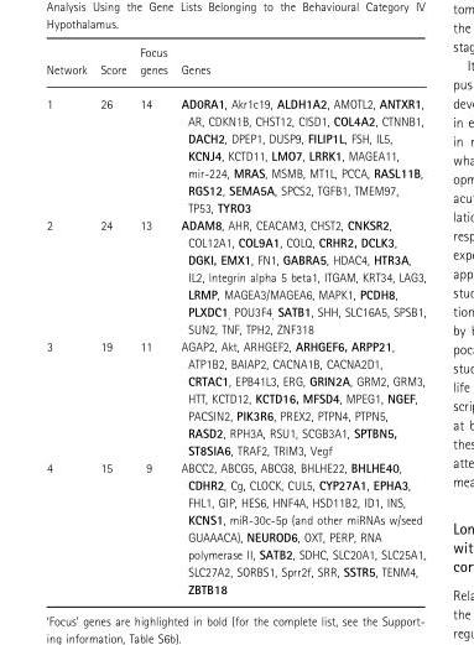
<table><thead><tr><td>Network</td><td>Score</td><td>Focus genes</td><td>Genes</td></tr></thead><tbody><tr><td>1</td><td>26</td><td>14</td><td>AD0RA1, Akr1c19, ALDH1A2, AMOTL2, ANTXR1, AR, CDKN1B, CHST12, CISD1, COL4A2, CTNNB1, DACH2, DPEP1, DUSP9, FILIP1L, FSH, IL5, KCNJ4, KCTD11, LMO7, LRRK1, MAGEA11, mir-224, MRAS, MSMB, MT1L, PCCA, RASL11B, RGS12, SEMA5A, SPCS2, TGFB1, TMEM97, TP53, TYRO3</td></tr><tr><td>2</td><td>24</td><td>13</td><td>ADAM8, AHR, CEACAM3, CHST2, CNKSR2, COL12A1, COL9A1, COLQ, CRHR2, DCLK3, DGKI, EMX1, FN1, GABRA5, HDAC4, HTR3A, IL2, lntegrin alpha 5 beta1, ITGAM, KRT34, LAG3, LRMP, MAGEA3/MAGEA6, MAPK1, PCDH8, PLXDC1<sub>,</sub> POU3F4<sub>,</sub> SATB1, SHH, SLC16A5, SPSB1, SUN2, TNF, TPH2, ZNF318</td></tr><tr><td>3</td><td>19</td><td>11</td><td>AGAP2, Akt, ARHGEF2, ARHGEF6, ARPP21, ATP1B2, BAIAP2, CACNA1B, CACNA2D1, CRTAC1, EPB41L3, ERG, GRIN2A, GRM2, GRM3, HTT, KCTD12, KCTD16, MFSD4, MPEG1, NGEF, PACSIN2, PIK3R6, PREX2, PTPN4, PTPN5, RASD2, RPH3A, RSU1, SCGB3A1, SPTBN5, ST8SIA6, TRAF2, TRIM3, Vegf</td></tr><tr><td>4</td><td>15</td><td>9</td><td>ABCC2, ABCG5, ABCG8, BHLHE22, BHLHE40, CDHR2, Cg, CLOCK, CUL5, CYP27A1, EPHA3, FHL1, GIP, HES6, HNF4A, HSD11B2, ID1, INS, KCNS1, miR-30c-5p (and other miRNAs w/seed GUAAACA), NEUROD6, OXT, PERP, RNA polymerase II, SATB2, SDHC, SLC20A1, SLC25A1, SLC27A2, SORBS1, Sprr2f, SRR, SSTR5, TENM4, ZBTB18</td></tr></tbody></table>